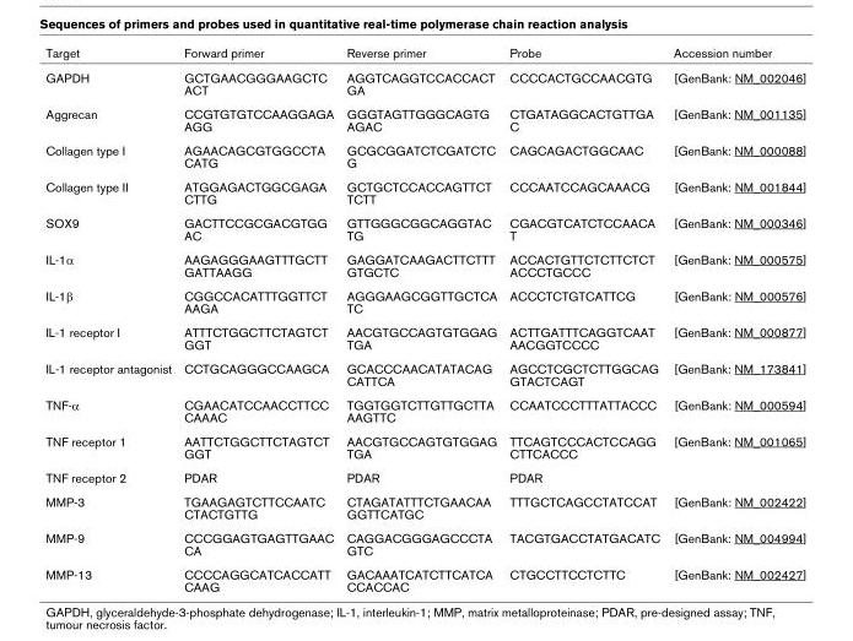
<table><thead><tr><td>Target</td><td>Forward primer</td><td>Reverse primer</td><td>Probe</td><td>Accession number</td></tr></thead><tbody><tr><td>GAPDH</td><td>GCTGAACGGGAAGCTC ACT</td><td>AGGTCAGGTCCACCACT GA</td><td>CCCCACTGCCAACGTG</td><td>[GenBank: NM_002046]</td></tr><tr><td>Aggrecan</td><td>CCGTGTGTCCAAGGAGA AGG</td><td>GGGTAGTTGGGCAGTG AGAC</td><td>CTGATAGGCACTGTTGA C</td><td>[GenBank: NM_001135]</td></tr><tr><td>Collagen type I</td><td>AGAACAGCGTGGCCTA CATG</td><td>GCGCGGATCTCGATCTC G</td><td>CAGCAGACTGGCAAC</td><td>[GenBank: NM_000088]</td></tr><tr><td>Collagen type II</td><td>ATGGAGACTGGCGAGA CTTG</td><td>GCTGCTCCACCAGTTCT TCTT</td><td>CCCAATCCAGCAAACG</td><td>[GenBank: NM_001844]</td></tr><tr><td>SOX9</td><td>GACTTCCGCGACGTGG AC</td><td>GTTGGGCGGCAGGTAC TG</td><td>CGACGTCATCTCCAACA T</td><td>[GenBank: NM_000346]</td></tr><tr><td>IL-1α</td><td>AAGAGGGAAGTTTGCTT GATTAAGG</td><td>GAGGATCAAGACTTCTTT GTGCTC</td><td>ACCACTGTTCTCTTCTCT ACCCTGCCC</td><td>[GenBank: NM_000575]</td></tr><tr><td>IL-1β</td><td>CGGCCACATTTGGTTCT AAGA</td><td>AGGGAAGCGGTTGCTCA TC</td><td>ACCCTCTGTCATTCG</td><td>[GenBank: NM_000576]</td></tr><tr><td>IL-1 receptor I</td><td>ATTTCTGGCTTCTAGTCT GGT</td><td>AACGTGCCAGTGTGGAG TGA</td><td>ACTTGATTTCAGGTCAAT AACGGTCCCC</td><td>[GenBank: NM_000877]</td></tr><tr><td>IL-1 receptor antagonist</td><td>CCTGCAGGGCCAAGCA</td><td>GCACCCAACATATACAG CATTCA</td><td>AGCCTCGCTCTTGGCAG GTACTCAGT</td><td>[GenBank: NM_173841]</td></tr><tr><td>TNF-α</td><td>CGAACATCCAACCTTCC CAAAC</td><td>TGGTGGTCTTGTTGCTTA AAGTTC</td><td>CCAATCCCTTTATTACCC</td><td>[GenBank: NM_000594]</td></tr><tr><td>TNF receptor 1</td><td>AATTCTGGCTTCTAGTCT GGT</td><td>AACGTGCCAGTGTGGAG TGA</td><td>TTCAGTCCCACTCCAGG CTTCACCC</td><td>[GenBank: NM_001065]</td></tr><tr><td>TNF receptor 2</td><td>PDAR</td><td>PDAR</td><td>PDAR</td><td></td></tr><tr><td>MMP-3</td><td>TGAAGAGTCTTCCAATC CTACTGTTG</td><td>CTAGATATTTCTGAACAA GGTTCATGC</td><td>TTTGCTCAGCCTATCCAT</td><td>[GenBank: NM_002422]</td></tr><tr><td>MMP-9</td><td>CCCGGAGTGAGTTGAAC CA</td><td>CAGGACGGGAGCCCTA GTC</td><td>TACGTGACCTATGACATC</td><td>[GenBank: NM_004994]</td></tr><tr><td>MMP-13</td><td>CCCCAGGCATCACCATT CAAG</td><td>GACAAATCATCTTCATCA CCACCAC</td><td>CTGCCTTCCTCTTC</td><td>[GenBank: NM_002427]</td></tr></tbody></table>